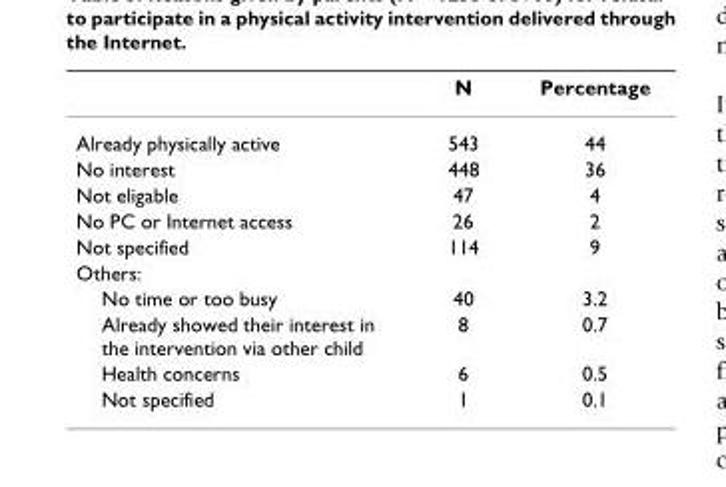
<table><thead><tr><td></td><td>N</td><td>Percentage</td></tr></thead><tbody><tr><td>Already physically active</td><td>543</td><td>44</td></tr><tr><td>No interest</td><td>448</td><td>36</td></tr><tr><td>Not eligable</td><td>47</td><td>4</td></tr><tr><td>No PC or Internet access</td><td>26</td><td>2</td></tr><tr><td>Not specified</td><td>114</td><td>9</td></tr><tr><td colspan="3">Others:</td></tr><tr><td>No time or too busy</td><td>40</td><td>3.2</td></tr><tr><td>Already showed their interest in the intervention via other child</td><td>8</td><td>0.7</td></tr><tr><td>Health concerns</td><td>6</td><td>0.5</td></tr><tr><td>Not specified</td><td>1</td><td>0.1</td></tr></tbody></table>